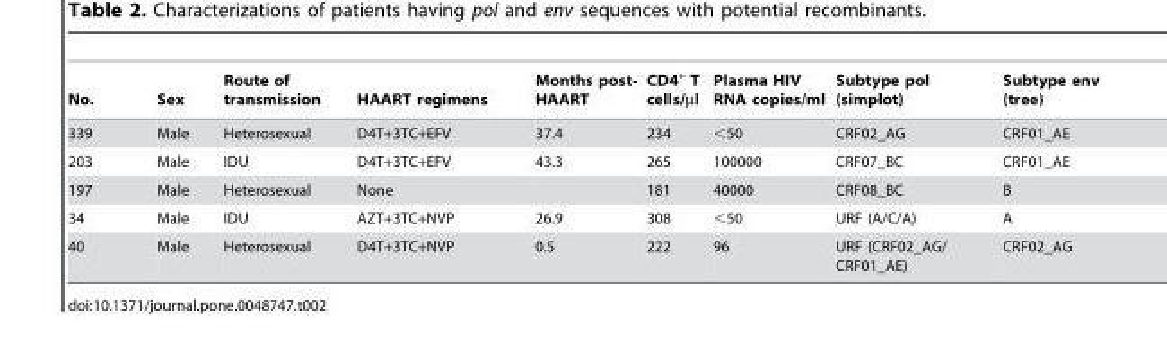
<table><thead><tr><td>No.</td><td>Sex</td><td>Route of transmission</td><td>HAART regimens</td><td>Months post- HAART</td><td>CD4<sup>+</sup> T cells/µl</td><td>Plasma HIV RNA copies/ml</td><td>Subtype pol (simplot)</td><td>Subtype env (tree)</td></tr></thead><tbody><tr><td>339</td><td>Male</td><td>Heterosexual</td><td>D4T+3TC+EFV</td><td>37.4</td><td>234</td><td>&lt;50</td><td>CRF02_AG</td><td>CRF01_AE</td></tr><tr><td>203</td><td>Male</td><td>IDU</td><td>D4T+3TC+EFV</td><td>43.3</td><td>265</td><td>100000</td><td>CRF07_BC</td><td>CRF01_AE</td></tr><tr><td>197</td><td>Male</td><td>Heterosexual</td><td>None</td><td></td><td>181</td><td>40000</td><td>CRF08_BC</td><td>B</td></tr><tr><td>34</td><td>Male</td><td>IDU</td><td>AZT+3TC+NVP</td><td>26.9</td><td>308</td><td>&lt;50</td><td>URF (A/C/A)</td><td>A</td></tr><tr><td>40</td><td>Male</td><td>Heterosexual</td><td>D4T+3TC+NVP</td><td>0.5</td><td>222</td><td>96</td><td>URF (CRF02_AG/ CRF01_AE)</td><td>CRF02_AG</td></tr></tbody></table>